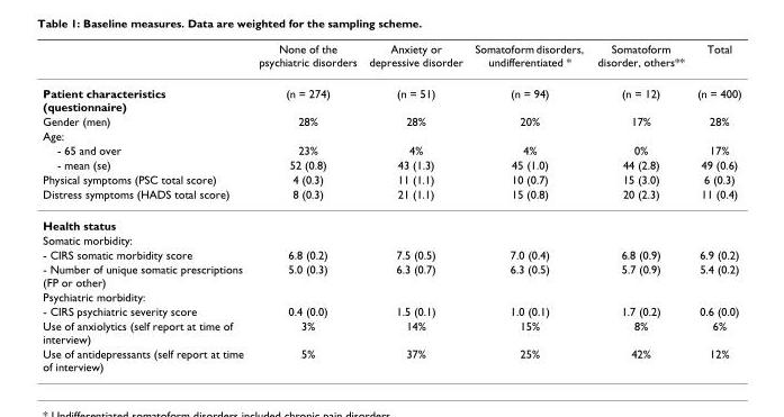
<table><thead><tr><td></td><td>None of the psychiatric disorders</td><td>Anxiety or depressive disorder</td><td>Somatoform disorders, undifferentiated *</td><td>Somatoform disorder, others**</td><td>Total</td></tr></thead><tbody><tr><td>Patient characteristics (questionnaire)</td><td>(n = 274)</td><td>(n = 51)</td><td>(n = 94)</td><td>(n = 12)</td><td>(n = 400)</td></tr><tr><td>Gender (men)</td><td>28%</td><td>28%</td><td>20%</td><td>17%</td><td>28%</td></tr><tr><td colspan="6">Age:</td></tr><tr><td>- 65 and over</td><td>23%</td><td>4%</td><td>4%</td><td>0%</td><td>17%</td></tr><tr><td>- mean (se)</td><td>52 (0.8)</td><td>43 (1.3)</td><td>45 (1.0)</td><td>44 (2.8)</td><td>49 (0.6)</td></tr><tr><td>Physical symptoms (PSC total score)</td><td>4 (0.3)</td><td>11 (1.1)</td><td>10 (0.7)</td><td>15 (3.0)</td><td>6 (0.3)</td></tr><tr><td>Distress symptoms (HADS total score)</td><td>8 (0.3)</td><td>21 (1.1)</td><td>15 (0.8)</td><td>20 (2.3)</td><td>11 (0.4)</td></tr><tr><td colspan="6">Health status</td></tr><tr><td colspan="6">Somatic morbidity:</td></tr><tr><td>- CIRS somatic morbidity score</td><td>6.8 (0.2)</td><td>7.5 (0.5)</td><td>7.0 (0.4)</td><td>6.8 (0.9)</td><td>6.9 (0.2)</td></tr><tr><td>- Number of unique somatic prescriptions (FP or other)</td><td>5.0 (0.3)</td><td>6.3 (0.7)</td><td>6.3 (0.5)</td><td>5.7 (0.9)</td><td>5.4 (0.2)</td></tr><tr><td colspan="6">Psychiatric morbidity:</td></tr><tr><td>- CIRS psychiatric severity score</td><td>0.4 (0.0)</td><td>1.5 (0.1)</td><td>1.0 (0.1)</td><td>1.7 (0.2)</td><td>0.6 (0.0)</td></tr><tr><td>Use of anxiolytics (self report at time of interview)</td><td>3%</td><td>14%</td><td>15%</td><td>8%</td><td>6%</td></tr><tr><td>Use of antidepressants (self report at time of interview)</td><td>5%</td><td>37%</td><td>25%</td><td>42%</td><td>12%</td></tr></tbody></table>